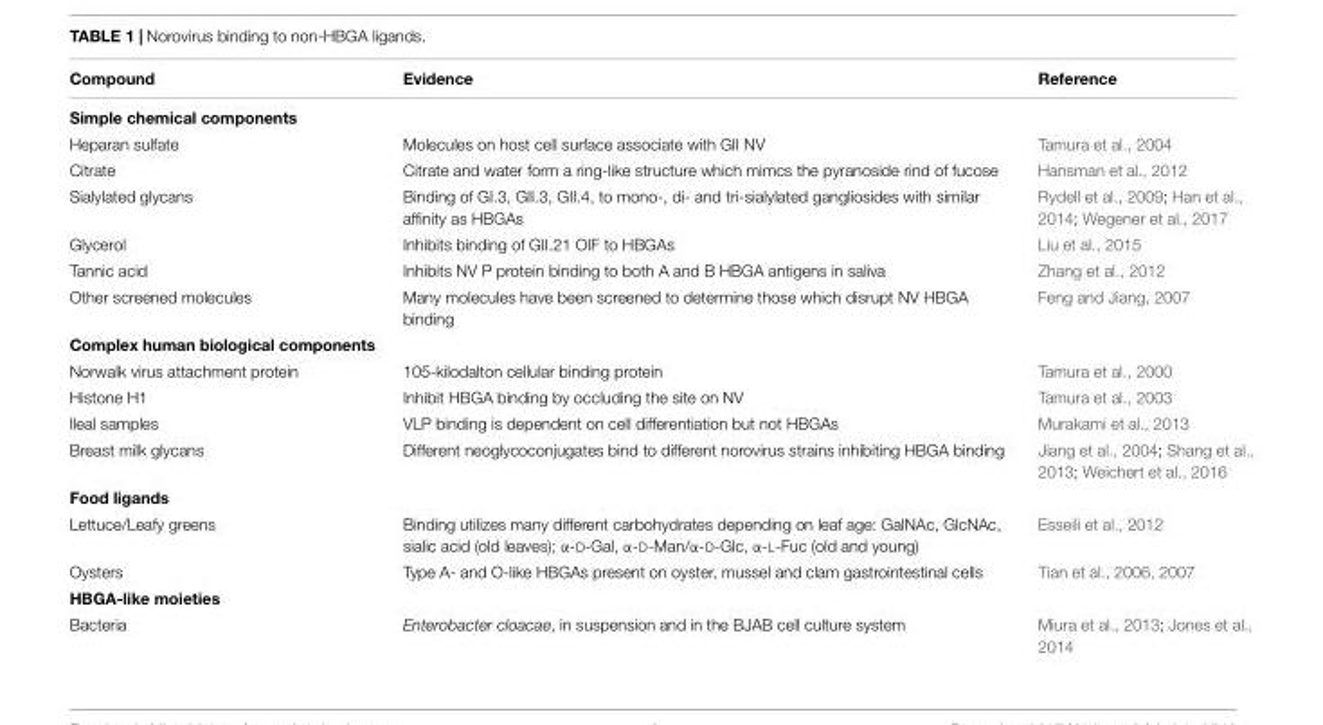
<table><thead><tr><td>Compound</td><td>Evidence</td><td>Reference</td></tr></thead><tbody><tr><td colspan="3">Simple chemical components</td></tr><tr><td>Heparan sulfate</td><td>Molecules on host cell surface associate with GII NV</td><td>Tamura et al., 2004</td></tr><tr><td>Citrate</td><td>Citrate and water form a ring-like structure which mimcs the pyranoside rind of fucose</td><td>Hansman et al., 2012</td></tr><tr><td>Sialylated glycans</td><td>Binding of GI.3, GII.3, GII.4, to mono-, di- and tri-sialylated gangliosides with similar affinity as HBGAs</td><td>Rydell et al., 2009; Han et al., 2014; Wegener et al., 2017</td></tr><tr><td>Glycerol</td><td>Inhibits binding of GII.21 OIF to HBGAs</td><td>Liu et al., 2015</td></tr><tr><td>Tannic acid</td><td>Inhibits NV P protein binding to both A and B HBGA antigens in saliva</td><td>Zhang et al., 2012</td></tr><tr><td>Other screened molecules</td><td>Many molecules have been screened to determine those which disrupt NV HBGA binding</td><td>Feng and Jiang, 2007</td></tr><tr><td colspan="3">Complex human biological components</td></tr><tr><td>Norwalk virus attachment protein</td><td>105-kilodalton cellular binding protein</td><td>Tamura et al., 2000</td></tr><tr><td>Histone H1</td><td>Inhibit HBGA binding by occluding the site on NV</td><td>Tamura et al., 2003</td></tr><tr><td>Ileal samples</td><td>VLP binding is dependent on cell differentiation but not HBGAs</td><td>Murakami et al., 2013</td></tr><tr><td>Breast milk glycans</td><td>Different neoglycoconjugates bind to different norovirus strains inhibiting HBGA binding</td><td>Jiang et al., 2004; Shang et al., 2013; Weichert et al., 2016</td></tr><tr><td colspan="3">Food ligands</td></tr><tr><td>Lettuce/Leafy greens</td><td>Binding utilizes many different carbohydrates depending on leaf age: GalNAc, GlcNAc, sialic acid (old leaves); α-D-Gal, α-D-Man/α-D-Glc, α-L-Fuc (old and young)</td><td>Esseili et al., 2012</td></tr><tr><td>Oysters</td><td>Type A- and O-like HBGAs present on oyster, mussel and clam gastrointestinal cells</td><td>Tian et al., 2006, 2007</td></tr><tr><td colspan="3">HBGA-like moieties</td></tr><tr><td>Bacteria</td><td>Enterobacter cloacae, in suspension and in the BJAB cell culture system</td><td>Miura et al., 2013; Jones et al., 2014</td></tr></tbody></table>